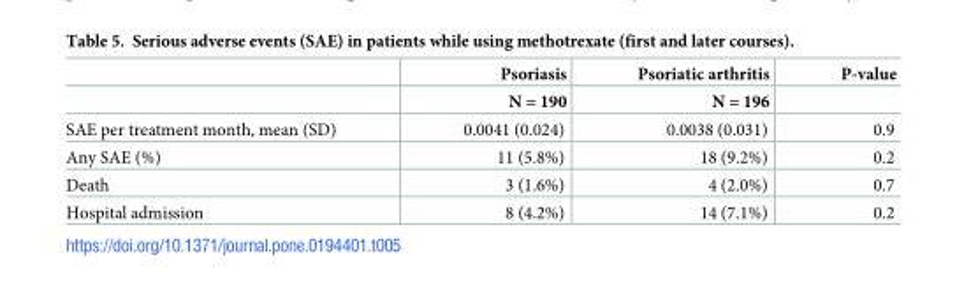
<table><thead><tr><td rowspan="2"></td><td rowspan="2">Psoriasis N = 190</td><td rowspan="2">Psoriatic arthritis N = 196</td><td rowspan="2">P-value</td></tr><tr></tr></thead><tbody><tr><td>SAE per treatment month, mean (SD)</td><td>0.0041 (0.024)</td><td>0.0038 (0.031)</td><td>0.9</td></tr><tr><td>Any SAE (%)</td><td>11 (5.8%)</td><td>18 (9.2%)</td><td>0.2</td></tr><tr><td>Death</td><td>3 (1.6%)</td><td>4 (2.0%)</td><td>0.7</td></tr><tr><td>Hospital admission</td><td>8 (4.2%)</td><td>14 (7.1%)</td><td>0.2</td></tr></tbody></table>